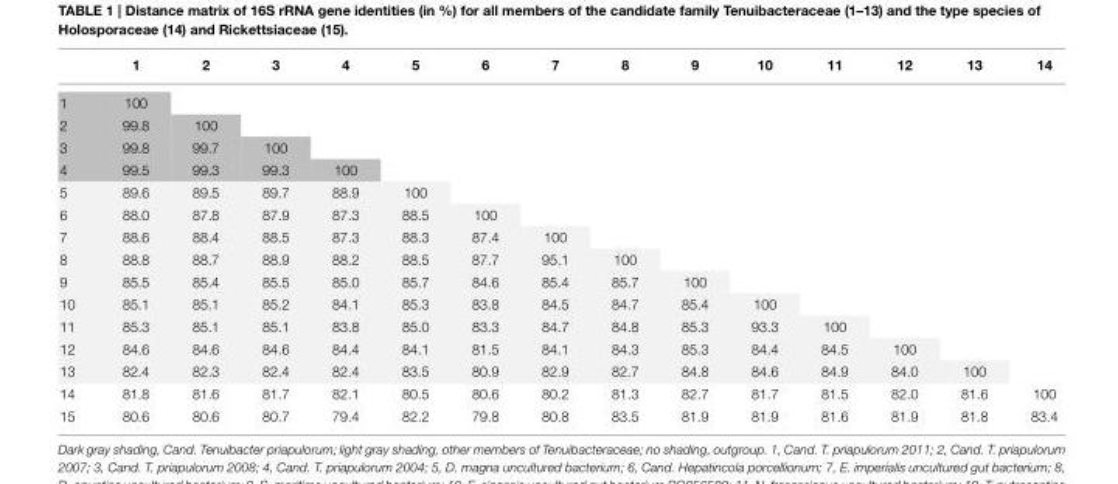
<table><thead><tr><td></td><td>1</td><td>2</td><td>3</td><td>4</td><td>5</td><td>6</td><td>7</td><td>8</td><td>9</td><td>10</td><td>11</td><td>12</td><td>13</td><td>14</td></tr></thead><tbody><tr><td>1</td><td>100</td><td></td><td></td><td></td><td></td><td></td><td></td><td></td><td></td><td></td><td></td><td></td><td></td><td></td></tr><tr><td>2</td><td>99.8</td><td>100</td><td></td><td></td><td></td><td></td><td></td><td></td><td></td><td></td><td></td><td></td><td></td><td></td></tr><tr><td>3</td><td>99.8</td><td>99.7</td><td>100</td><td></td><td></td><td></td><td></td><td></td><td></td><td></td><td></td><td></td><td></td><td></td></tr><tr><td>4</td><td>99.5</td><td>99.3</td><td>99.3</td><td>100</td><td></td><td></td><td></td><td></td><td></td><td></td><td></td><td></td><td></td><td></td></tr><tr><td>5</td><td>89.6</td><td>89.5</td><td>89.7</td><td>88.9</td><td>100</td><td></td><td></td><td></td><td></td><td></td><td></td><td></td><td></td><td></td></tr><tr><td>6</td><td>88.0</td><td>87.8</td><td>87.9</td><td>87.3</td><td>88.5</td><td>100</td><td></td><td></td><td></td><td></td><td></td><td></td><td></td><td></td></tr><tr><td>7</td><td>88.6</td><td>88.4</td><td>88.5</td><td>87.3</td><td>88.3</td><td>87.4</td><td>100</td><td></td><td></td><td></td><td></td><td></td><td></td><td></td></tr><tr><td>8</td><td>88.8</td><td>88.7</td><td>88.9</td><td>88.2</td><td>88.5</td><td>87.7</td><td>95.1</td><td>100</td><td></td><td></td><td></td><td></td><td></td><td></td></tr><tr><td>9</td><td>85.5</td><td>85.4</td><td>85.5</td><td>85.0</td><td>85.7</td><td>84.6</td><td>85.4</td><td>85.7</td><td>100</td><td></td><td></td><td></td><td></td><td></td></tr><tr><td>10</td><td>85.1</td><td>85.1</td><td>85.2</td><td>84.1</td><td>85.3</td><td>83.8</td><td>84.5</td><td>84.7</td><td>85.4</td><td>100</td><td></td><td></td><td></td><td></td></tr><tr><td>11</td><td>85.3</td><td>85.1</td><td>85.1</td><td>83.8</td><td>85.0</td><td>83.3</td><td>84.7</td><td>84.8</td><td>85.3</td><td>93.3</td><td>100</td><td></td><td></td><td></td></tr><tr><td>12</td><td>84.6</td><td>84.6</td><td>84.6</td><td>84.4</td><td>84.1</td><td>81.5</td><td>84.1</td><td>84.3</td><td>85.3</td><td>84.4</td><td>84.5</td><td>100</td><td></td><td></td></tr><tr><td>13</td><td>82.4</td><td>82.3</td><td>82.4</td><td>82.4</td><td>83.5</td><td>80.9</td><td>82.9</td><td>82.7</td><td>84.8</td><td>84.6</td><td>84.9</td><td>84.0</td><td>100</td><td></td></tr><tr><td>14</td><td>81.8</td><td>81.6</td><td>81.7</td><td>82.1</td><td>80.5</td><td>80.6</td><td>80.2</td><td>81.3</td><td>82.7</td><td>81.7</td><td>81.5</td><td>82.0</td><td>81.6</td><td>100</td></tr><tr><td>15</td><td>80.6</td><td>80.6</td><td>80.7</td><td>79.4</td><td>82.2</td><td>79.8</td><td>80.8</td><td>83.5</td><td>81.9</td><td>81.9</td><td>81.6</td><td>81.9</td><td>81.8</td><td>83.4</td></tr></tbody></table>